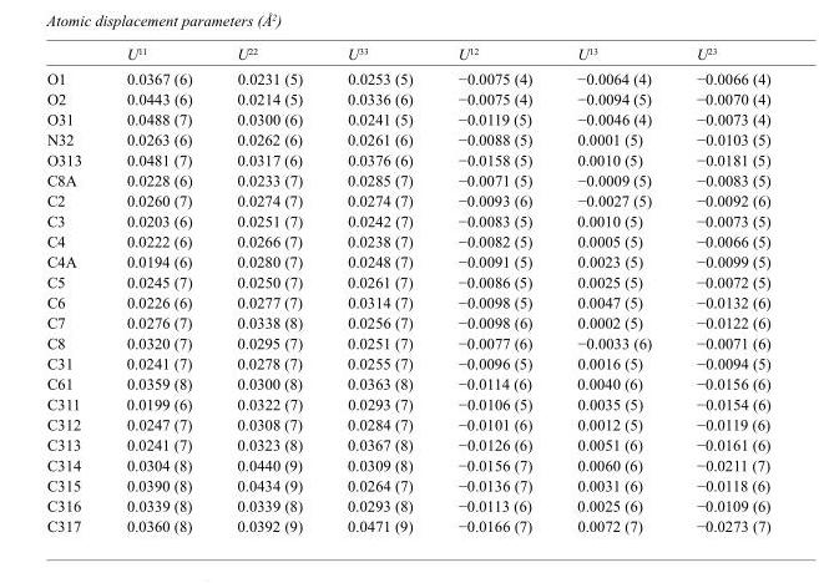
<table><thead><tr><td></td><td>U<sup>11</sup></td><td>U<sup>22</sup></td><td>U<sup>33</sup></td><td>U<sup>12</sup></td><td>U<sup>13</sup></td><td>U<sup>23</sup></td></tr></thead><tbody><tr><td>O1</td><td>0.0367 (6)</td><td>0.0231 (5)</td><td>0.0253 (5)</td><td>−0.0075 (4)</td><td>−0.0064 (4)</td><td>−0.0066 (4)</td></tr><tr><td>O2</td><td>0.0443 (6)</td><td>0.0214 (5)</td><td>0.0336 (6)</td><td>−0.0075 (4)</td><td>−0.0094 (5)</td><td>−0.0070 (4)</td></tr><tr><td>O31</td><td>0.0488 (7)</td><td>0.0300 (6)</td><td>0.0241 (5)</td><td>−0.0119 (5)</td><td>−0.0046 (4)</td><td>−0.0073 (4)</td></tr><tr><td>N32</td><td>0.0263 (6)</td><td>0.0262 (6)</td><td>0.0261 (6)</td><td>−0.0088 (5)</td><td>0.0001 (5)</td><td>−0.0103 (5)</td></tr><tr><td>O313</td><td>0.0481 (7)</td><td>0.0317 (6)</td><td>0.0376 (6)</td><td>−0.0158 (5)</td><td>0.0010 (5)</td><td>−0.0181 (5)</td></tr><tr><td>C8A</td><td>0.0228 (6)</td><td>0.0233 (7)</td><td>0.0285 (7)</td><td>−0.0071 (5)</td><td>−0.0009 (5)</td><td>−0.0083 (5)</td></tr><tr><td>C2</td><td>0.0260 (7)</td><td>0.0274 (7)</td><td>0.0274 (7)</td><td>−0.0093 (6)</td><td>−0.0027 (5)</td><td>−0.0092 (6)</td></tr><tr><td>C3</td><td>0.0203 (6)</td><td>0.0251 (7)</td><td>0.0242 (7)</td><td>−0.0083 (5)</td><td>0.0010 (5)</td><td>−0.0073 (5)</td></tr><tr><td>C4</td><td>0.0222 (6)</td><td>0.0266 (7)</td><td>0.0238 (7)</td><td>−0.0082 (5)</td><td>0.0005 (5)</td><td>−0.0066 (5)</td></tr><tr><td>C4A</td><td>0.0194 (6)</td><td>0.0280 (7)</td><td>0.0248 (7)</td><td>−0.0091 (5)</td><td>0.0023 (5)</td><td>−0.0099 (5)</td></tr><tr><td>C5</td><td>0.0245 (7)</td><td>0.0250 (7)</td><td>0.0261 (7)</td><td>−0.0086 (5)</td><td>0.0025 (5)</td><td>−0.0072 (5)</td></tr><tr><td>C6</td><td>0.0226 (6)</td><td>0.0277 (7)</td><td>0.0314 (7)</td><td>−0.0098 (5)</td><td>0.0047 (5)</td><td>−0.0132 (6)</td></tr><tr><td>C7</td><td>0.0276 (7)</td><td>0.0338 (8)</td><td>0.0256 (7)</td><td>−0.0098 (6)</td><td>0.0002 (5)</td><td>−0.0122 (6)</td></tr><tr><td>C8</td><td>0.0320 (7)</td><td>0.0295 (7)</td><td>0.0251 (7)</td><td>−0.0077 (6)</td><td>−0.0033 (6)</td><td>−0.0071 (6)</td></tr><tr><td>C31</td><td>0.0241 (7)</td><td>0.0278 (7)</td><td>0.0255 (7)</td><td>−0.0096 (5)</td><td>0.0016 (5)</td><td>−0.0094 (5)</td></tr><tr><td>C61</td><td>0.0359 (8)</td><td>0.0300 (8)</td><td>0.0363 (8)</td><td>−0.0114 (6)</td><td>0.0040 (6)</td><td>−0.0156 (6)</td></tr><tr><td>C311</td><td>0.0199 (6)</td><td>0.0322 (7)</td><td>0.0293 (7)</td><td>−0.0106 (5)</td><td>0.0035 (5)</td><td>−0.0154 (6)</td></tr><tr><td>C312</td><td>0.0247 (7)</td><td>0.0308 (7)</td><td>0.0284 (7)</td><td>−0.0101 (6)</td><td>0.0012 (5)</td><td>−0.0119 (6)</td></tr><tr><td>C313</td><td>0.0241 (7)</td><td>0.0323 (8)</td><td>0.0367 (8)</td><td>−0.0126 (6)</td><td>0.0051 (6)</td><td>−0.0161 (6)</td></tr><tr><td>C314</td><td>0.0304 (8)</td><td>0.0440 (9)</td><td>0.0309 (8)</td><td>−0.0156 (7)</td><td>0.0060 (6)</td><td>−0.0211 (7)</td></tr><tr><td>C315</td><td>0.0390 (8)</td><td>0.0434 (9)</td><td>0.0264 (7)</td><td>−0.0136 (7)</td><td>0.0031 (6)</td><td>−0.0118 (6)</td></tr><tr><td>C316</td><td>0.0339 (8)</td><td>0.0339 (8)</td><td>0.0293 (8)</td><td>−0.0113 (6)</td><td>0.0025 (6)</td><td>−0.0109 (6)</td></tr><tr><td>C317</td><td>0.0360 (8)</td><td>0.0392 (9)</td><td>0.0471 (9)</td><td>−0.0166 (7)</td><td>0.0072 (7)</td><td>−0.0273 (7)</td></tr></tbody></table>